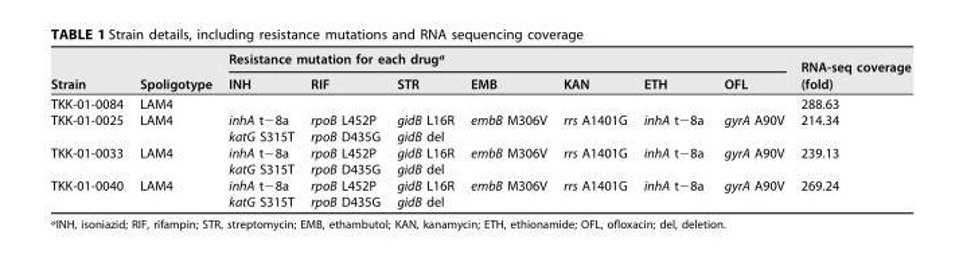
<table><thead><tr><td rowspan="2">Strain</td><td rowspan="2">Spoligotype</td><td colspan="7">Resistance mutation for each drug<sup>a</sup></td><td rowspan="2">RNA-seq coverage (fold)</td></tr><tr><td>INH</td><td>RIF</td><td>STR</td><td>EMB</td><td>KAN</td><td>ETH</td><td>OFL</td></tr></thead><tbody><tr><td>TKK-01-0084</td><td>LAM4</td><td></td><td></td><td></td><td></td><td></td><td></td><td></td><td>288.63</td></tr><tr><td rowspan="2">TKK-01-0025</td><td>LAM4</td><td>inhA t−8a</td><td>rpoB L452P</td><td>gidB L16R</td><td>embB M306V</td><td>rrs A1401G</td><td>inhA t−8a</td><td>gyrA A90V</td><td>214.34</td></tr><tr><td></td><td>katG S315T</td><td>rpoB D435G</td><td>gidB del</td><td></td><td></td><td></td><td></td><td></td></tr><tr><td rowspan="2">TKK-01-0033</td><td>LAM4</td><td>inhA t−8a</td><td>rpoB L452P</td><td>gidB L16R</td><td>embB M306V</td><td>rrs A1401G</td><td>inhA t−8a</td><td>gyrA A90V</td><td>239.13</td></tr><tr><td></td><td>katG S315T</td><td>rpoB D435G</td><td>gidB del</td><td></td><td></td><td></td><td></td><td></td></tr><tr><td rowspan="2">TKK-01-0040</td><td>LAM4</td><td>inhA t−8a</td><td>rpoB L452P</td><td>gidB L16R</td><td>embB M306V</td><td>rrs A1401G</td><td>inhA t−8a</td><td>gyrA A90V</td><td>269.24</td></tr><tr><td></td><td>katG S315T</td><td>rpoB D435G</td><td>gidB del</td><td></td><td></td><td></td><td></td><td></td></tr></tbody></table>